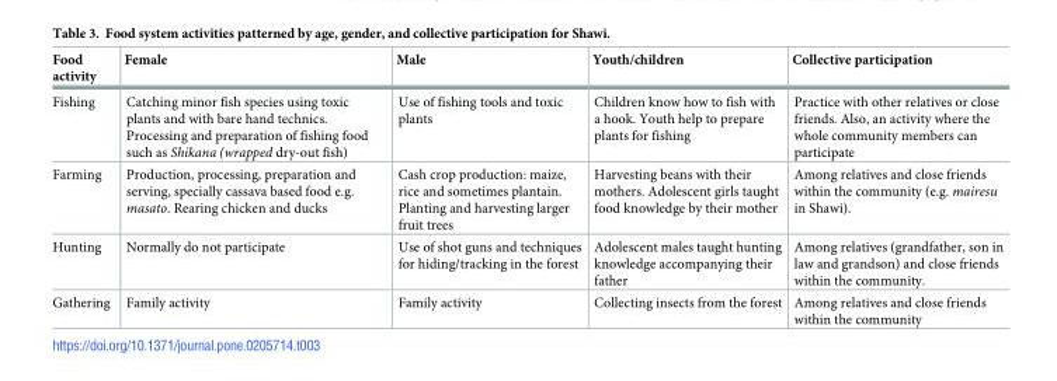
<table><thead><tr><td>Food activity</td><td>Female</td><td>Male</td><td>Youth/children</td><td>Collective participation</td></tr></thead><tbody><tr><td>Fishing</td><td>Catching minor fish species using toxic plants and with bare hand technics. Processing and preparation of fishing food such as Shikana (wrapped dry-out fish)</td><td>Use of fishing tools and toxic plants</td><td>Children know how to fish with a hook. Youth help to prepare plants for fishing</td><td>Practice with other relatives or close friends. Also, an activity where the whole community members can participate</td></tr><tr><td>Farming</td><td>Production, processing, preparation and serving, specially cassava based food e.g. masato. Rearing chicken and ducks</td><td>Cash crop production: maize, rice and sometimes plantain. Planting and harvesting larger fruit trees</td><td>Harvesting beans with their mothers. Adolescent girls taught food knowledge by their mother</td><td>Among relatives and close friends within the community (e.g. mairesu in Shawi).</td></tr><tr><td>Hunting</td><td>Normally do not participate</td><td>Use of shot guns and techniques for hiding/tracking in the forest</td><td>Adolescent males taught hunting knowledge accompanying their father</td><td>Among relatives (grandfather, son in law and grandson) and close friends within the community.</td></tr><tr><td>Gathering</td><td>Family activity</td><td>Family activity</td><td>Collecting insects from the forest</td><td>Among relatives and close friends within the community</td></tr></tbody></table>